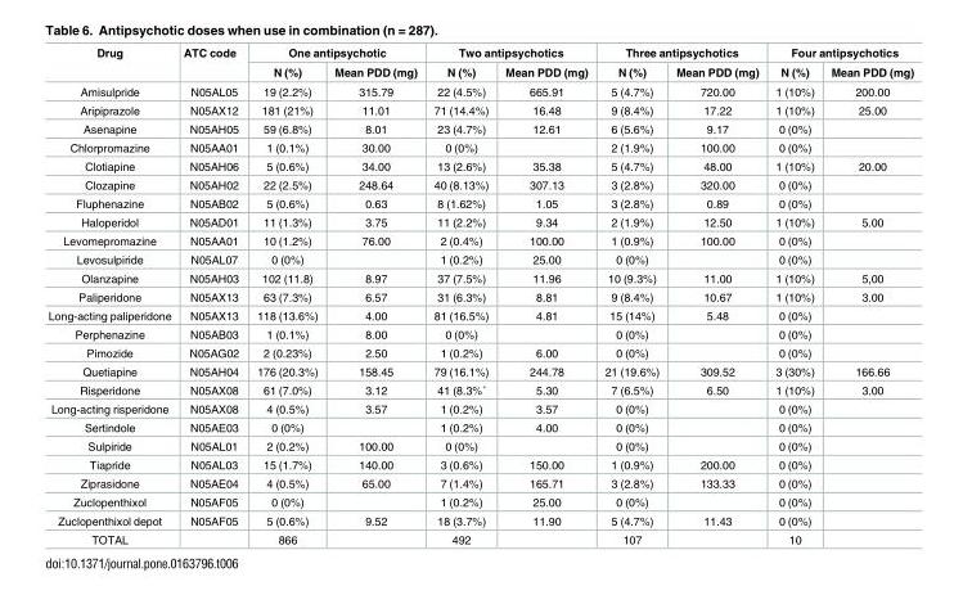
<table><thead><tr><td rowspan="2">Drug</td><td rowspan="2">ATC code</td><td colspan="2">One antipsychotic</td><td colspan="2">Two antipsychotics</td><td colspan="2">Three antipsychotics</td><td colspan="2">Four antipsychotics</td></tr><tr><td>N (%)</td><td>Mean PDD (mg)</td><td>N (%)</td><td>Mean PDD (mg)</td><td>N (%)</td><td>Mean PDD (mg)</td><td>N (%)</td><td>Mean PDD (mg)</td></tr></thead><tbody><tr><td>Amisulpride</td><td>N05AL05</td><td>19 (2.2%)</td><td>315.79</td><td>22 (4.5%)</td><td>665.91</td><td>5 (4.7%)</td><td>720.00</td><td>1 (10%)</td><td>200.00</td></tr><tr><td>Aripiprazole</td><td>N05AX12</td><td>181 (21%)</td><td>11.01</td><td>71 (14.4%)</td><td>16.48</td><td>9 (8.4%)</td><td>17.22</td><td>1 (10%)</td><td>25.00</td></tr><tr><td>Asenapine</td><td>N05AH05</td><td>59 (6.8%)</td><td>8.01</td><td>23 (4.7%)</td><td>12.61</td><td>6 (5.6%)</td><td>9.17</td><td>0 (0%)</td><td></td></tr><tr><td>Chlorpromazine</td><td>N05AA01</td><td>1 (0.1%)</td><td>30.00</td><td>0 (0%)</td><td></td><td>2 (1.9%)</td><td>100.00</td><td>0 (0%)</td><td></td></tr><tr><td>Clotiapine</td><td>N05AH06</td><td>5 (0.6%)</td><td>34.00</td><td>13 (2.6%)</td><td>35.38</td><td>5 (4.7%)</td><td>48.00</td><td>1 (10%)</td><td>20.00</td></tr><tr><td>Clozapine</td><td>N05AH02</td><td>22 (2.5%)</td><td>248.64</td><td>40 (8.13%)</td><td>307.13</td><td>3 (2.8%)</td><td>320.00</td><td>0 (0%)</td><td></td></tr><tr><td>Fluphenazine</td><td>N05AB02</td><td>5 (0.6%)</td><td>0.63</td><td>8 (1.62%)</td><td>1.05</td><td>3 (2.8%)</td><td>0.89</td><td>0 (0%)</td><td></td></tr><tr><td>Haloperidol</td><td>N05AD01</td><td>11 (1.3%)</td><td>3.75</td><td>11 (2.2%)</td><td>9.34</td><td>2 (1.9%)</td><td>12.50</td><td>1 (10%)</td><td>5.00</td></tr><tr><td>Levomepromazine</td><td>N05AA01</td><td>10 (1.2%)</td><td>76.00</td><td>2 (0.4%)</td><td>100.00</td><td>1 (0.9%)</td><td>100.00</td><td>0 (0%)</td><td></td></tr><tr><td>Levosulpiride</td><td>N05AL07</td><td>0 (0%)</td><td></td><td>1 (0.2%)</td><td>25.00</td><td>0 (0%)</td><td></td><td>0 (0%)</td><td></td></tr><tr><td>Olanzapine</td><td>N05AH03</td><td>102 (11.8)</td><td>8.97</td><td>37 (7.5%)</td><td>11.96</td><td>10 (9.3%)</td><td>11.00</td><td>1 (10%)</td><td>5,00</td></tr><tr><td>Paliperidone</td><td>N05AX13</td><td>63 (7.3%)</td><td>6.57</td><td>31 (6.3%)</td><td>8.81</td><td>9 (8.4%)</td><td>10.67</td><td>1 (10%)</td><td>3.00</td></tr><tr><td>Long-acting paliperidone</td><td>N05AX13</td><td>118 (13.6%)</td><td>4.00</td><td>81 (16.5%)</td><td>4.81</td><td>15 (14%)</td><td>5.48</td><td>0 (0%)</td><td></td></tr><tr><td>Perphenazine</td><td>N05AB03</td><td>1 (0.1%)</td><td>8.00</td><td>0 (0%)</td><td></td><td>0 (0%)</td><td></td><td>0 (0%)</td><td></td></tr><tr><td>Pimozide</td><td>N05AG02</td><td>2 (0.23%)</td><td>2.50</td><td>1 (0.2%)</td><td>6.00</td><td>0 (0%)</td><td></td><td>0 (0%)</td><td></td></tr><tr><td>Quetiapine</td><td>N05AH04</td><td>176 (20.3%)</td><td>158.45</td><td>79 (16.1%)</td><td>244.78</td><td>21 (19.6%)</td><td>309.52</td><td>3 (30%)</td><td>166.66</td></tr><tr><td>Risperidone</td><td>N05AX08</td><td>61 (7.0%)</td><td>3.12</td><td>41 (8.3%˚</td><td>5.30</td><td>7 (6.5%)</td><td>6.50</td><td>1 (10%)</td><td>3.00</td></tr><tr><td>Long-acting risperidone</td><td>N05AX08</td><td>4 (0.5%)</td><td>3.57</td><td>1 (0.2%)</td><td>3.57</td><td>0 (0%)</td><td></td><td>0 (0%)</td><td></td></tr><tr><td>Sertindole</td><td>N05AE03</td><td>0 (0%)</td><td></td><td>1 (0.2%)</td><td>4.00</td><td>0 (0%)</td><td></td><td>0 (0%)</td><td></td></tr><tr><td>Sulpiride</td><td>N05AL01</td><td>2 (0.2%)</td><td>100.00</td><td>0 (0%)</td><td></td><td>0 (0%)</td><td></td><td>0 (0%)</td><td></td></tr><tr><td>Tiapride</td><td>N05AL03</td><td>15 (1.7%)</td><td>140.00</td><td>3 (0.6%)</td><td>150.00</td><td>1 (0.9%)</td><td>200.00</td><td>0 (0%)</td><td></td></tr><tr><td>Ziprasidone</td><td>N05AE04</td><td>4 (0.5%)</td><td>65.00</td><td>7 (1.4%)</td><td>165.71</td><td>3 (2.8%)</td><td>133.33</td><td>0 (0%)</td><td></td></tr><tr><td>Zuclopenthixol</td><td>N05AF05</td><td>0 (0%)</td><td></td><td>1 (0.2%)</td><td>25.00</td><td>0 (0%)</td><td></td><td>0 (0%)</td><td></td></tr><tr><td>Zuclopenthixol depot</td><td>N05AF05</td><td>5 (0.6%)</td><td>9.52</td><td>18 (3.7%)</td><td>11.90</td><td>5 (4.7%)</td><td>11.43</td><td>0 (0%)</td><td></td></tr><tr><td>TOTAL</td><td></td><td>866</td><td></td><td>492</td><td></td><td>107</td><td></td><td>10</td><td></td></tr></tbody></table>